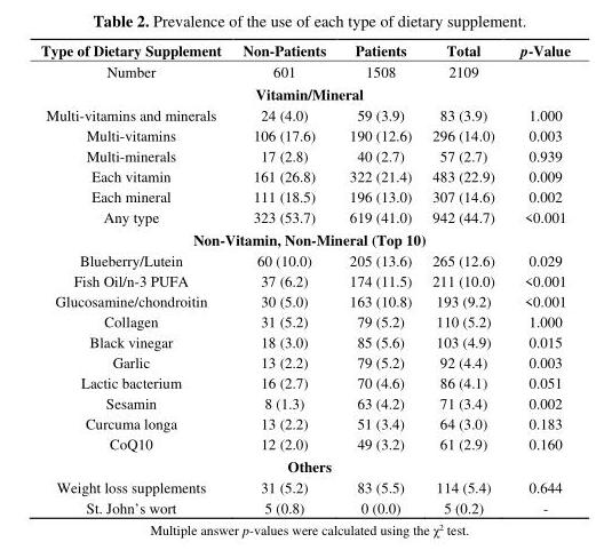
<table><thead><tr><td>Type of Dietary Supplement</td><td>Non-Patients</td><td>Patients</td><td>Total</td><td>p-Value</td></tr></thead><tbody><tr><td>Number</td><td>601</td><td>1508</td><td>2109</td><td></td></tr><tr><td colspan="5">Vitamin/Mineral</td></tr><tr><td>Multi-vitamins and minerals</td><td>24 (4.0)</td><td>59 (3.9)</td><td>83 (3.9)</td><td>1.000</td></tr><tr><td>Multi-vitamins</td><td>106 (17.6)</td><td>190 (12.6)</td><td>296 (14.0)</td><td>0.003</td></tr><tr><td>Multi-minerals</td><td>17 (2.8)</td><td>40 (2.7)</td><td>57 (2.7)</td><td>0.939</td></tr><tr><td>Each vitamin</td><td>161 (26.8)</td><td>322 (21.4)</td><td>483 (22.9)</td><td>0.009</td></tr><tr><td>Each mineral</td><td>111 (18.5)</td><td>196 (13.0)</td><td>307 (14.6)</td><td>0.002</td></tr><tr><td>Any type</td><td>323 (53.7)</td><td>619 (41.0)</td><td>942 (44.7)</td><td>&lt;0.001</td></tr><tr><td colspan="5">Non-Vitamin, Non-Mineral (Top 10)</td></tr><tr><td>Blueberry/Lutein</td><td>60 (10.0)</td><td>205 (13.6)</td><td>265 (12.6)</td><td>0.029</td></tr><tr><td>Fish Oil/n-3 PUFA</td><td>37 (6.2)</td><td>174 (11.5)</td><td>211 (10.0)</td><td>&lt;0.001</td></tr><tr><td>Glucosamine/chondroitin</td><td>30 (5.0)</td><td>163 (10.8)</td><td>193 (9.2)</td><td>&lt;0.001</td></tr><tr><td>Collagen</td><td>31 (5.2)</td><td>79 (5.2)</td><td>110 (5.2)</td><td>1.000</td></tr><tr><td>Black vinegar</td><td>18 (3.0)</td><td>85 (5.6)</td><td>103 (4.9)</td><td>0.015</td></tr><tr><td>Garlic</td><td>13 (2.2)</td><td>79 (5.2)</td><td>92 (4.4)</td><td>0.003</td></tr><tr><td>Lactic bacterium</td><td>16 (2.7)</td><td>70 (4.6)</td><td>86 (4.1)</td><td>0.051</td></tr><tr><td>Sesamin</td><td>8 (1.3)</td><td>63 (4.2)</td><td>71 (3.4)</td><td>0.002</td></tr><tr><td>Curcuma longa</td><td>13 (2.2)</td><td>51 (3.4)</td><td>64 (3.0)</td><td>0.183</td></tr><tr><td>CoQ10</td><td>12 (2.0)</td><td>49 (3.2)</td><td>61 (2.9)</td><td>0.160</td></tr><tr><td colspan="5">Others</td></tr><tr><td>Weight loss supplements</td><td>31 (5.2)</td><td>83 (5.5)</td><td>114 (5.4)</td><td>0.644</td></tr><tr><td>St. John’s wort</td><td>5 (0.8)</td><td>0 (0.0)</td><td>5 (0.2)</td><td>-</td></tr></tbody></table>